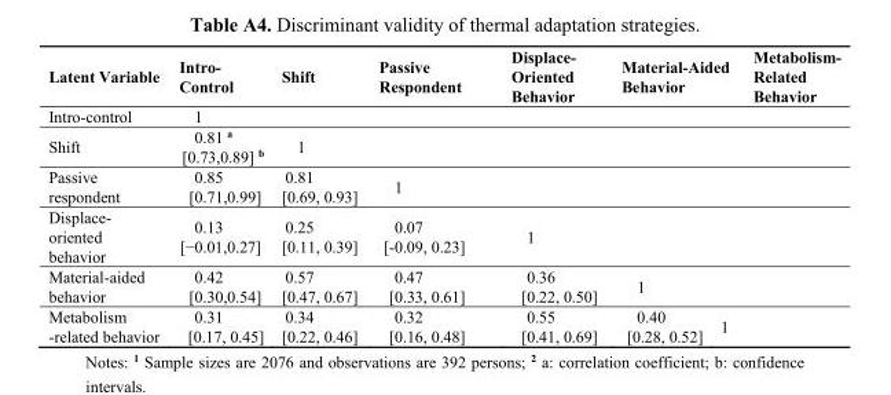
<table><thead><tr><td>Latent Variable</td><td>Intro- Control</td><td>Shift</td><td>Passive Respondent</td><td>Displace- Oriented Behavior</td><td colspan="2">Material-Aided Behavior</td><td>Metabolism- Related Behavior</td></tr></thead><tbody><tr><td>Intro-control</td><td>1</td><td></td><td></td><td></td><td></td><td colspan="2"></td></tr><tr><td>Shift</td><td>0.81 <sup>a</sup> [0.73,0.89] <sup>b</sup></td><td>1</td><td></td><td></td><td></td><td colspan="2"></td></tr><tr><td>Passive respondent</td><td>0.85 [0.71,0.99]</td><td>0.81 [0.69, 0.93]</td><td>1</td><td></td><td></td><td colspan="2"></td></tr><tr><td>Displace- oriented behavior</td><td>0.13 [−0.01,0.27]</td><td>0.25 [0.11, 0.39]</td><td>0.07 [-0.09, 0.23]</td><td>1</td><td></td><td colspan="2"></td></tr><tr><td>Material-aided behavior</td><td>0.42 [0.30,0.54]</td><td>0.57 [0.47, 0.67]</td><td>0.47 [0.33, 0.61]</td><td>0.36 [0.22, 0.50]</td><td>1</td><td colspan="2"></td></tr><tr><td>Metabolism -related behavior</td><td>0.31 [0.17, 0.45]</td><td>0.34 [0.22, 0.46]</td><td>0.32 [0.16, 0.48]</td><td>0.55 [0.41, 0.69]</td><td>0.40 [0.28, 0.52]</td><td colspan="2">1</td></tr></tbody></table>